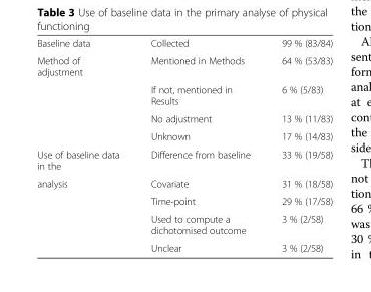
<table><tbody><tr><td>Baseline data</td><td>Collected</td><td>99 % (83/84)</td></tr><tr><td rowspan="4">Method of adjustment</td><td>Mentioned in Methods</td><td>64 % (53/83)</td></tr><tr><td>If not, mentioned in Results</td><td>6 % (5/83)</td></tr><tr><td>No adjustment</td><td>13 % (11/83)</td></tr><tr><td>Unknown</td><td>17 % (14/83)</td></tr><tr><td>Use of baseline data in the</td><td>Difference from baseline</td><td>33 % (19/58)</td></tr><tr><td rowspan="4">analysis</td><td>Covariate</td><td>31 % (18/58)</td></tr><tr><td>Time-point</td><td>29 % (17/58)</td></tr><tr><td>Used to compute a dichotomised outcome</td><td>3 % (2/58)</td></tr><tr><td>Unclear</td><td>3 % (2/58)</td></tr></tbody></table>